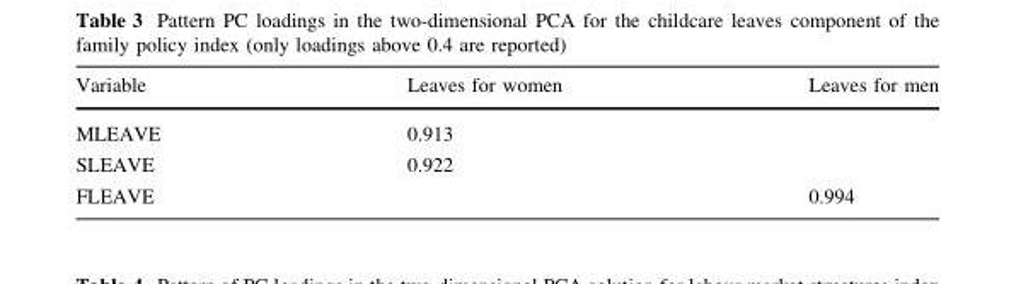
<table><thead><tr><td>Variable</td><td>Leaves for women</td><td>Leaves for men</td></tr></thead><tbody><tr><td>MLEAVE</td><td>0.913</td><td></td></tr><tr><td>SLEAVE</td><td>0.922</td><td></td></tr><tr><td>FLEAVE</td><td></td><td>0.994</td></tr></tbody></table>